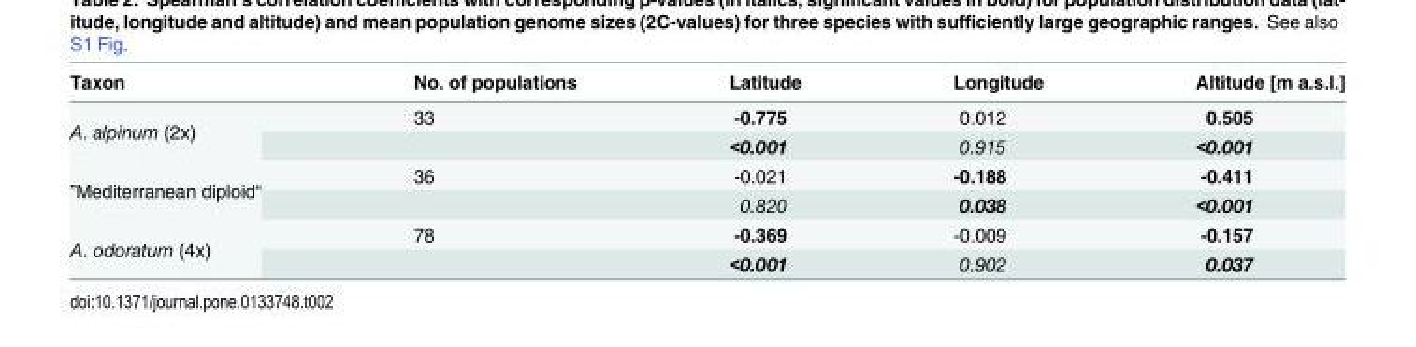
<table><thead><tr><td>Taxon</td><td>No. of populations</td><td>Latitude</td><td>Longitude</td><td>Altitude [m a.s.l.]</td></tr></thead><tbody><tr><td rowspan="2">A. alpinum (2x)</td><td>33</td><td>-0.775</td><td>0.012</td><td>0.505</td></tr><tr><td></td><td>&lt;0.001</td><td>0.915</td><td>&lt;0.001</td></tr><tr><td rowspan="2">”Mediterranean diploid“</td><td>36</td><td>-0.021</td><td>-0.188</td><td>-0.411</td></tr><tr><td></td><td>0.820</td><td>0.038</td><td>&lt;0.001</td></tr><tr><td rowspan="2">A. odoratum (4x)</td><td>78</td><td>-0.369</td><td>-0.009</td><td>-0.157</td></tr><tr><td></td><td>&lt;0.001</td><td>0.902</td><td>0.037</td></tr></tbody></table>